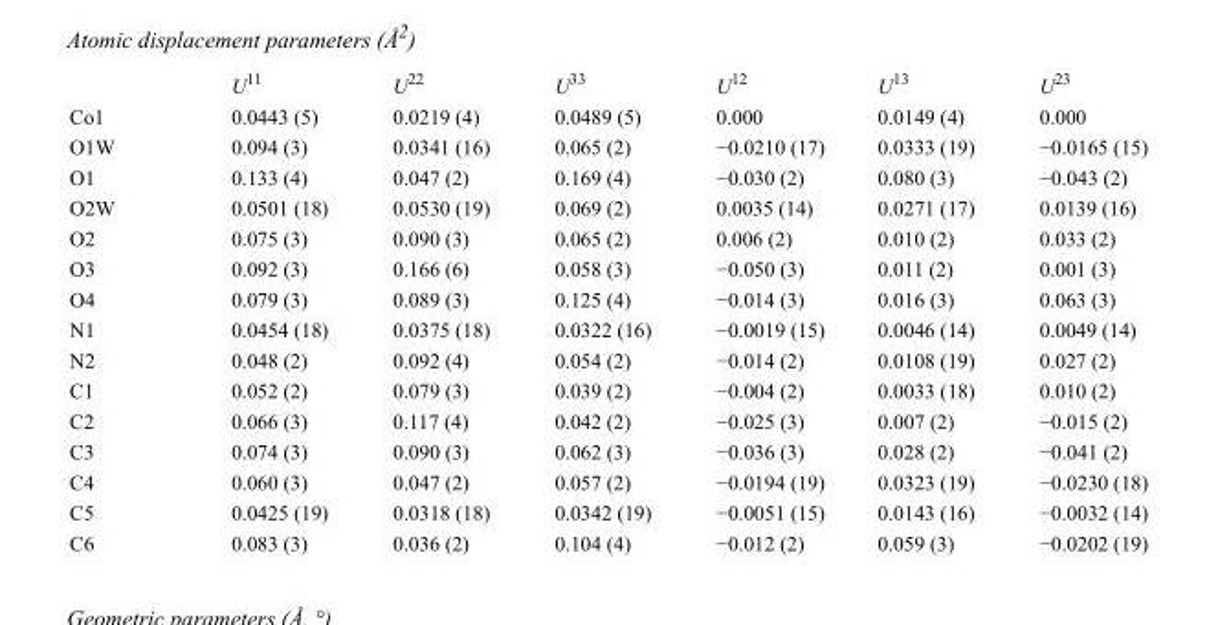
<table><thead><tr><td></td><td>U<sup>11</sup></td><td>U<sup>22</sup></td><td>U<sup>33</sup></td><td>U<sup>12</sup></td><td>U<sup>13</sup></td><td>U<sup>23</sup></td></tr></thead><tbody><tr><td>Co1</td><td>0.0443 (5)</td><td>0.0219 (4)</td><td>0.0489 (5)</td><td>0.000</td><td>0.0149 (4)</td><td>0.000</td></tr><tr><td>O1W</td><td>0.094 (3)</td><td>0.0341 (16)</td><td>0.065 (2)</td><td>−0.0210 (17)</td><td>0.0333 (19)</td><td>−0.0165 (15)</td></tr><tr><td>O1</td><td>0.133 (4)</td><td>0.047 (2)</td><td>0.169 (4)</td><td>−0.030 (2)</td><td>0.080 (3)</td><td>−0.043 (2)</td></tr><tr><td>O2W</td><td>0.0501 (18)</td><td>0.0530 (19)</td><td>0.069 (2)</td><td>0.0035 (14)</td><td>0.0271 (17)</td><td>0.0139 (16)</td></tr><tr><td>O2</td><td>0.075 (3)</td><td>0.090 (3)</td><td>0.065 (2)</td><td>0.006 (2)</td><td>0.010 (2)</td><td>0.033 (2)</td></tr><tr><td>O3</td><td>0.092 (3)</td><td>0.166 (6)</td><td>0.058 (3)</td><td>−0.050 (3)</td><td>0.011 (2)</td><td>0.001 (3)</td></tr><tr><td>O4</td><td>0.079 (3)</td><td>0.089 (3)</td><td>0.125 (4)</td><td>−0.014 (3)</td><td>0.016 (3)</td><td>0.063 (3)</td></tr><tr><td>N1</td><td>0.0454 (18)</td><td>0.0375 (18)</td><td>0.0322 (16)</td><td>−0.0019 (15)</td><td>0.0046 (14)</td><td>0.0049 (14)</td></tr><tr><td>N2</td><td>0.048 (2)</td><td>0.092 (4)</td><td>0.054 (2)</td><td>−0.014 (2)</td><td>0.0108 (19)</td><td>0.027 (2)</td></tr><tr><td>C1</td><td>0.052 (2)</td><td>0.079 (3)</td><td>0.039 (2)</td><td>−0.004 (2)</td><td>0.0033 (18)</td><td>0.010 (2)</td></tr><tr><td>C2</td><td>0.066 (3)</td><td>0.117 (4)</td><td>0.042 (2)</td><td>−0.025 (3)</td><td>0.007 (2)</td><td>−0.015 (2)</td></tr><tr><td>C3</td><td>0.074 (3)</td><td>0.090 (3)</td><td>0.062 (3)</td><td>−0.036 (3)</td><td>0.028 (2)</td><td>−0.041 (2)</td></tr><tr><td>C4</td><td>0.060 (3)</td><td>0.047 (2)</td><td>0.057 (2)</td><td>−0.0194 (19)</td><td>0.0323 (19)</td><td>−0.0230 (18)</td></tr><tr><td>C5</td><td>0.0425 (19)</td><td>0.0318 (18)</td><td>0.0342 (19)</td><td>−0.0051 (15)</td><td>0.0143 (16)</td><td>−0.0032 (14)</td></tr><tr><td>C6</td><td>0.083 (3)</td><td>0.036 (2)</td><td>0.104 (4)</td><td>−0.012 (2)</td><td>0.059 (3)</td><td>−0.0202 (19)</td></tr></tbody></table>